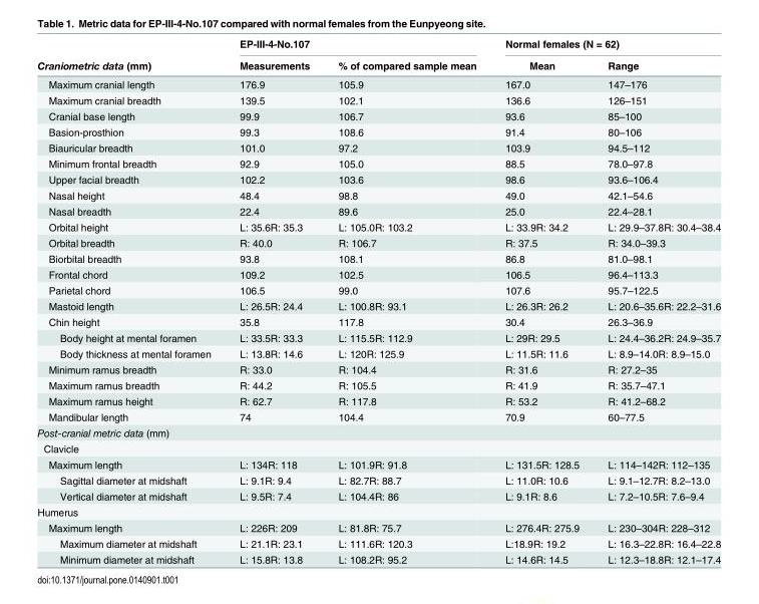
<table><thead><tr><td rowspan="2">Craniometric data (mm)</td><td colspan="2">EP-III-4-No.107</td><td colspan="2">Normal females (N = 62)</td></tr><tr><td>Measurements</td><td>% of compared sample mean</td><td>Mean</td><td>Range</td></tr></thead><tbody><tr><td>Maximum cranial length</td><td>176.9</td><td>105.9</td><td>167.0</td><td>147–176</td></tr><tr><td>Maximum cranial breadth</td><td>139.5</td><td>102.1</td><td>136.6</td><td>126–151</td></tr><tr><td>Cranial base length</td><td>99.9</td><td>106.7</td><td>93.6</td><td>85–100</td></tr><tr><td>Basion-prosthion</td><td>99.3</td><td>108.6</td><td>91.4</td><td>80–106</td></tr><tr><td>Biauricular breadth</td><td>101.0</td><td>97.2</td><td>103.9</td><td>94.5–112</td></tr><tr><td>Minimum frontal breadth</td><td>92.9</td><td>105.0</td><td>88.5</td><td>78.0–97.8</td></tr><tr><td>Upper facial breadth</td><td>102.2</td><td>103.6</td><td>98.6</td><td>93.6–106.4</td></tr><tr><td>Nasal height</td><td>48.4</td><td>98.8</td><td>49.0</td><td>42.1–54.6</td></tr><tr><td>Nasal breadth</td><td>22.4</td><td>89.6</td><td>25.0</td><td>22.4–28.1</td></tr><tr><td>Orbital height</td><td>L: 35.6R: 35.3</td><td>L: 105.0R: 103.2</td><td>L: 33.9R: 34.2</td><td>L: 29.9–37.8R: 30.4–38.4</td></tr><tr><td>Orbital breadth</td><td>R: 40.0</td><td>R: 106.7</td><td>R: 37.5</td><td>R: 34.0–39.3</td></tr><tr><td>Biorbital breadth</td><td>93.8</td><td>108.1</td><td>86.8</td><td>81.0–98.1</td></tr><tr><td>Frontal chord</td><td>109.2</td><td>102.5</td><td>106.5</td><td>96.4–113.3</td></tr><tr><td>Parietal chord</td><td>106.5</td><td>99.0</td><td>107.6</td><td>95.7–122.5</td></tr><tr><td>Mastoid length</td><td>L: 26.5R: 24.4</td><td>L: 100.8R: 93.1</td><td>L: 26.3R: 26.2</td><td>L: 20.6–35.6R: 22.2–31.6</td></tr><tr><td>Chin height</td><td>35.8</td><td>117.8</td><td>30.4</td><td>26.3–36.9</td></tr><tr><td>Body height at mental foramen</td><td>L: 33.5R: 33.3</td><td>L: 115.5R: 112.9</td><td>L: 29R: 29.5</td><td>L: 24.4–36.2R: 24.9–35.7</td></tr><tr><td>Body thickness at mental foramen</td><td>L: 13.8R: 14.6</td><td>L: 120R: 125.9</td><td>L: 11.5R: 11.6</td><td>L: 8.9–14.0R: 8.9–15.0</td></tr><tr><td>Minimum ramus breadth</td><td>R: 33.0</td><td>R: 104.4</td><td>R: 31.6</td><td>R: 27.2–35</td></tr><tr><td>Maximum ramus breadth</td><td>R: 44.2</td><td>R: 105.5</td><td>R: 41.9</td><td>R: 35.7–47.1</td></tr><tr><td>Maximum ramus height</td><td>R: 62.7</td><td>R: 117.8</td><td>R: 53.2</td><td>R: 41.2–68.2</td></tr><tr><td>Mandibular length</td><td>74</td><td>104.4</td><td>70.9</td><td>60–77.5</td></tr><tr><td colspan="5">Post-cranial metric data (mm)</td></tr><tr><td colspan="5">Clavicle</td></tr><tr><td>Maximum length</td><td>L: 134R: 118</td><td>L: 101.9R: 91.8</td><td>L: 131.5R: 128.5</td><td>L: 114–142R: 112–135</td></tr><tr><td>Sagittal diameter at midshaft</td><td>L: 9.1R: 9.4</td><td>L: 82.7R: 88.7</td><td>L: 11.0R: 10.6</td><td>L: 9.1–12.7R: 8.2–13.0</td></tr><tr><td>Vertical diameter at midshaft</td><td>L: 9.5R: 7.4</td><td>L: 104.4R: 86</td><td>L: 9.1R: 8.6</td><td>L: 7.2–10.5R: 7.6–9.4</td></tr><tr><td colspan="5">Humerus</td></tr><tr><td>Maximum length</td><td>L: 226R: 209</td><td>L: 81.8R: 75.7</td><td>L: 276.4R: 275.9</td><td>L: 230–304R: 228–312</td></tr><tr><td>Maximum diameter at midshaft</td><td>L: 21.1R: 23.1</td><td>L: 111.6R: 120.3</td><td>L:18.9R: 19.2</td><td>L: 16.3–22.8R: 16.4–22.8</td></tr><tr><td>Minimum diameter at midshaft</td><td>L: 15.8R: 13.8</td><td>L: 108.2R: 95.2</td><td>L: 14.6R: 14.5</td><td>L: 12.3–18.8R: 12.1–17.4</td></tr></tbody></table>